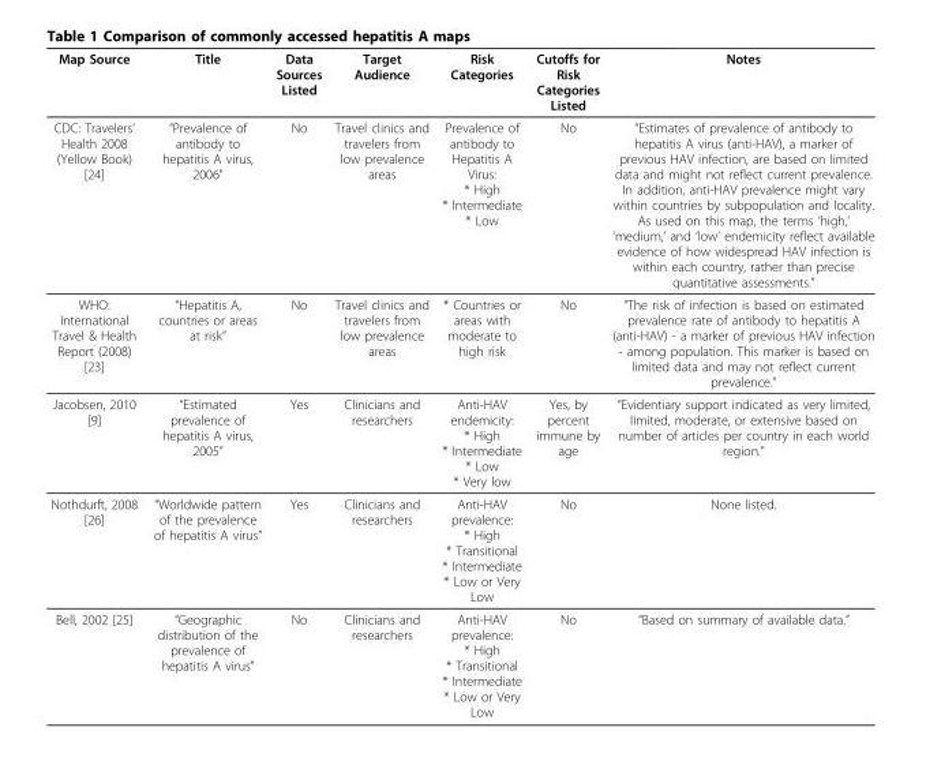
<table><thead><tr><td>Map Source</td><td>Title</td><td>Data Sources Listed</td><td>Target Audience</td><td>Risk Categories</td><td>Cutoffs for Risk Categories Listed</td><td>Notes</td></tr></thead><tbody><tr><td>CDC: Travelers’ Health 2008 (Yellow Book) [24]</td><td>“Prevalence of antibody to hepatitis A virus, 2006”</td><td>No</td><td>Travel clinics and travelers from low prevalence areas</td><td>Prevalence of antibody to Hepatitis A Virus: * High * Intermediate * Low</td><td>No</td><td>“Estimates of prevalence of antibody to hepatitis A virus (anti-HAV), a marker of previous HAV infection, are based on limited data and might not reflect current prevalence. In addition, anti-HAV prevalence might vary within countries by subpopulation and locality. As used on this map, the terms ‘high,’ ‘medium,’ and ‘low’ endemicity reflect available evidence of how widespread HAV infection is within each country, rather than precise quantitative assessments.”</td></tr><tr><td>WHO: International Travel &amp; Health Report (2008) [23]</td><td>“Hepatitis A, countries or areas at risk”</td><td>No</td><td>Travel clinics and travelers from low prevalence areas</td><td>* Countries or areas with moderate to high risk</td><td>No</td><td>“The risk of infection is based on estimated prevalence rate of antibody to hepatitis A (anti-HAV) - a marker of previous HAV infection - among population. This marker is based on limited data and may not reflect current prevalence.”</td></tr><tr><td>Jacobsen, 2010 [9]</td><td>“Estimated prevalence of hepatitis A virus, 2005”</td><td>Yes</td><td>Clinicians and researchers</td><td>Anti-HAV endemicity: * High * Intermediate * Low * Very low</td><td>Yes, by percent immune by age</td><td>“Evidentiary support indicated as very limited, limited, moderate, or extensive based on number of articles per country in each world region.”</td></tr><tr><td>Nothdurft, 2008 [26]</td><td>“Worldwide pattern of the prevalence of hepatitis A virus”</td><td>Yes</td><td>Clinicians and researchers</td><td>Anti-HAV prevalence: * High * Transitional * Intermediate * Low or Very Low</td><td>No</td><td>None listed.</td></tr><tr><td>Bell, 2002 [25]</td><td>“Geographic distribution of the prevalence of hepatitis A virus”</td><td>No</td><td>Clinicians and researchers</td><td>Anti-HAV prevalence: * High * Transitional * Intermediate * Low or Very Low</td><td>No</td><td>“Based on summary of available data.”</td></tr></tbody></table>